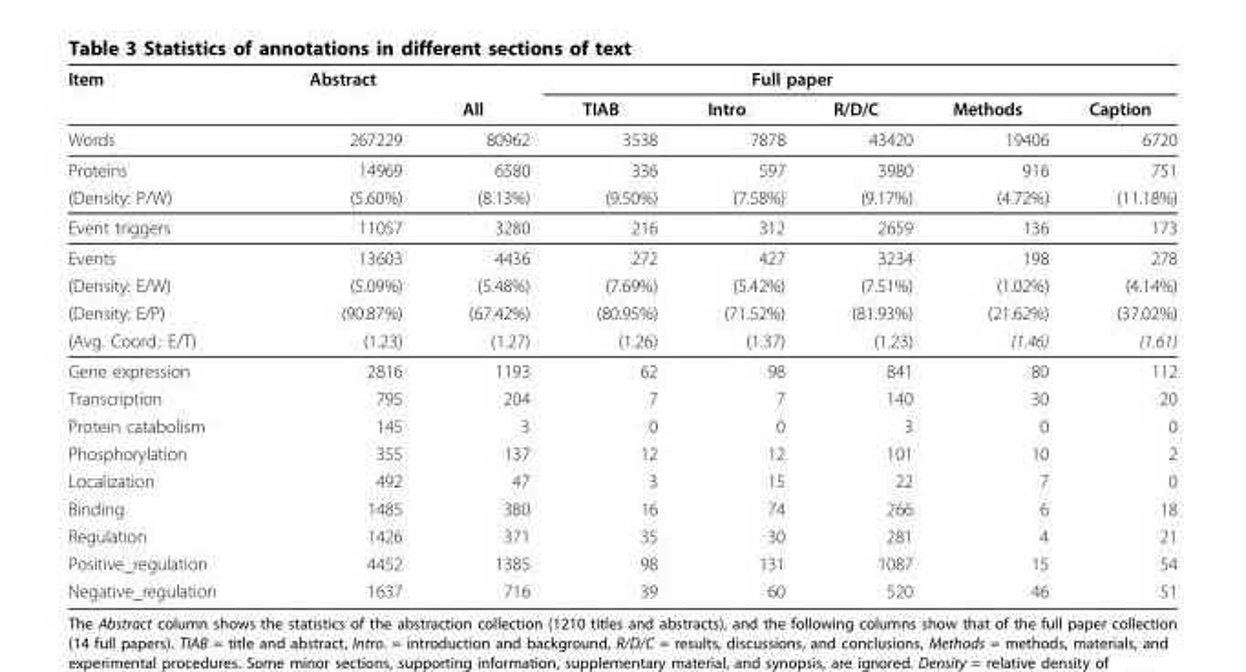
<table><thead><tr><td rowspan="2">Item</td><td rowspan="2">Abstract</td><td rowspan="2">All</td><td rowspan="2">TIAB</td><td colspan="2">Full paper</td><td rowspan="2">Methods</td><td rowspan="2">Caption</td></tr><tr><td>Intro.</td><td>R/D/C</td></tr></thead><tbody><tr><td>Words</td><td>267229</td><td>80962</td><td>3538</td><td>7878</td><td>43420</td><td>19406</td><td>6720</td></tr><tr><td>Proteins</td><td>14969</td><td>6580</td><td>336</td><td>597</td><td>3980</td><td>916</td><td>751</td></tr><tr><td>(Density: P/W)</td><td>(5.60%)</td><td>(8.13%)</td><td>(9.50%)</td><td>(7.58%)</td><td>(9.17%)</td><td>(4.72%)</td><td>(11.18%)</td></tr><tr><td>Event triggers</td><td>11057</td><td>3280</td><td>216</td><td>312</td><td>2659</td><td>136</td><td>173</td></tr><tr><td>Events</td><td>13603</td><td>4436</td><td>272</td><td>427</td><td>3234</td><td>198</td><td>278</td></tr><tr><td>(Density: E/W)</td><td>(5.09%)</td><td>(5.48%)</td><td>(7.69%)</td><td>(5.42%)</td><td>(7.51%)</td><td>(1.02%)</td><td>(4.14%)</td></tr><tr><td>(Density: E/P)</td><td>(90.87%)</td><td>(67.42%)</td><td>(80.95%)</td><td>(71.52%)</td><td>(81.93%)</td><td>(21.62%)</td><td>(37.02%)</td></tr><tr><td>(Avg. Coord.: E/T)</td><td>(1.23)</td><td>(1.27)</td><td>(1.26)</td><td>(1.37)</td><td>(1.23)</td><td>(1.46)</td><td>(1.61)</td></tr><tr><td>Gene expression</td><td>2816</td><td>1193</td><td>62</td><td>98</td><td>841</td><td>80</td><td>112</td></tr><tr><td>Transcription</td><td>795</td><td>204</td><td>7</td><td>7</td><td>140</td><td>30</td><td>20</td></tr><tr><td>Protein catabolism</td><td>145</td><td>3</td><td>0</td><td>0</td><td>3</td><td>0</td><td>0</td></tr><tr><td>Phosphorylation</td><td>355</td><td>137</td><td>12</td><td>12</td><td>101</td><td>10</td><td>2</td></tr><tr><td>Localization</td><td>492</td><td>47</td><td>3</td><td>15</td><td>22</td><td>7</td><td>0</td></tr><tr><td>Binding</td><td>1485</td><td>380</td><td>16</td><td>74</td><td>266</td><td>6</td><td>18</td></tr><tr><td>Regulation</td><td>1426</td><td>371</td><td>35</td><td>30</td><td>281</td><td>4</td><td>21</td></tr><tr><td>Positive_regulation</td><td>4452</td><td>1385</td><td>98</td><td>131</td><td>1087</td><td>15</td><td>54</td></tr><tr><td>Negative_regulation</td><td>1637</td><td>716</td><td>39</td><td>60</td><td>520</td><td>46</td><td>51</td></tr></tbody></table>